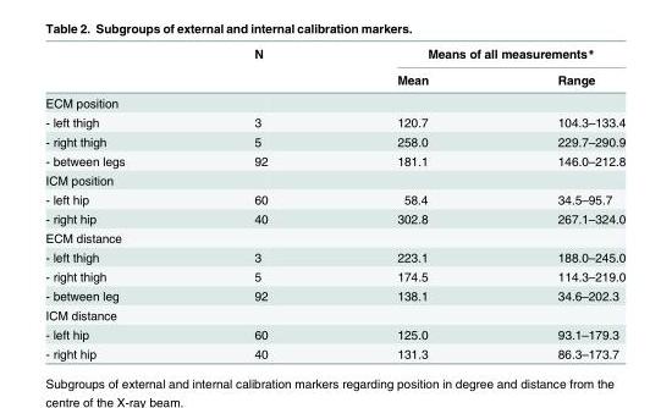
<table><thead><tr><td rowspan="2"></td><td rowspan="2">N</td><td colspan="2">Means of all measurements*</td></tr><tr><td>Mean</td><td>Range</td></tr></thead><tbody><tr><td colspan="4">ECM position</td></tr><tr><td>- left thigh</td><td>3</td><td>120.7</td><td>104.3–133.4</td></tr><tr><td>- right thigh</td><td>5</td><td>258.0</td><td>229.7–290.9</td></tr><tr><td>- between legs</td><td>92</td><td>181.1</td><td>146.0–212.8</td></tr><tr><td colspan="4">ICM position</td></tr><tr><td>- left hip</td><td>60</td><td>58.4</td><td>34.5–95.7</td></tr><tr><td>- right hip</td><td>40</td><td>302.8</td><td>267.1–324.0</td></tr><tr><td colspan="4">ECM distance</td></tr><tr><td>- left thigh</td><td>3</td><td>223.1</td><td>188.0–245.0</td></tr><tr><td>- right thigh</td><td>5</td><td>174.5</td><td>114.3–219.0</td></tr><tr><td>- between leg</td><td>92</td><td>138.1</td><td>34.6–202.3</td></tr><tr><td colspan="4">ICM distance</td></tr><tr><td>- left hip</td><td>60</td><td>125.0</td><td>93.1–179.3</td></tr><tr><td>- right hip</td><td>40</td><td>131.3</td><td>86.3–173.7</td></tr></tbody></table>